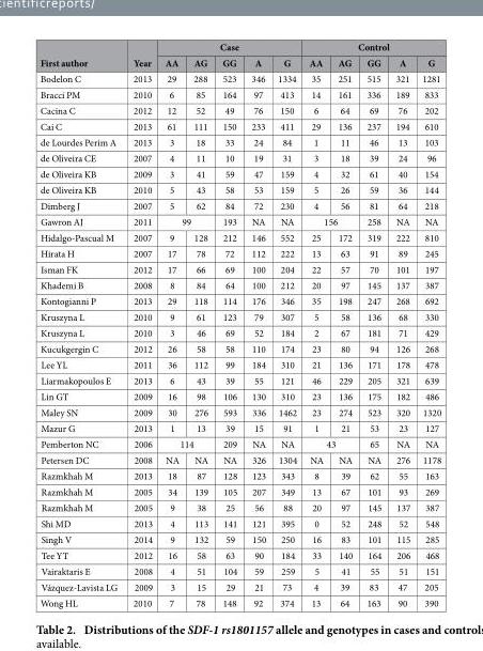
<table><thead><tr><td rowspan="2">First author</td><td rowspan="2">Year</td><td colspan="5">Case</td><td colspan="5">Control</td></tr><tr><td>AA</td><td>AG</td><td>GG</td><td>A</td><td>G</td><td>AA</td><td>AG</td><td>GG</td><td>A</td><td>G</td></tr></thead><tbody><tr><td>Bodelon C</td><td>2013</td><td>29</td><td>288</td><td>523</td><td>346</td><td>1334</td><td>35</td><td>251</td><td>515</td><td>321</td><td>1281</td></tr><tr><td>Bracci PM</td><td>2010</td><td>6</td><td>85</td><td>164</td><td>97</td><td>413</td><td>14</td><td>161</td><td>336</td><td>189</td><td>833</td></tr><tr><td>Cacina C</td><td>2012</td><td>12</td><td>52</td><td>49</td><td>76</td><td>150</td><td>6</td><td>64</td><td>69</td><td>76</td><td>202</td></tr><tr><td>Cai C</td><td>2013</td><td>61</td><td>111</td><td>150</td><td>233</td><td>411</td><td>29</td><td>136</td><td>237</td><td>194</td><td>610</td></tr><tr><td>de Lourdes Perim A</td><td>2013</td><td>3</td><td>18</td><td>33</td><td>24</td><td>84</td><td>1</td><td>11</td><td>46</td><td>13</td><td>103</td></tr><tr><td>de Oliveira CE</td><td>2007</td><td>4</td><td>11</td><td>10</td><td>19</td><td>31</td><td>3</td><td>18</td><td>39</td><td>24</td><td>96</td></tr><tr><td>de Oliveira KB</td><td>2009</td><td>3</td><td>41</td><td>59</td><td>47</td><td>159</td><td>4</td><td>32</td><td>61</td><td>40</td><td>154</td></tr><tr><td>de Oliveira KB</td><td>2010</td><td>5</td><td>43</td><td>58</td><td>53</td><td>159</td><td>5</td><td>26</td><td>59</td><td>36</td><td>144</td></tr><tr><td>Dimberg J</td><td>2007</td><td>5</td><td>62</td><td>84</td><td>72</td><td>230</td><td>4</td><td>56</td><td>81</td><td>64</td><td>218</td></tr><tr><td>Gawron AJ</td><td>2011</td><td colspan="2">99</td><td>193</td><td>NA</td><td>NA</td><td colspan="2">156</td><td>258</td><td>NA</td><td>NA</td></tr><tr><td>Hidalgo-Pascual M</td><td>2007</td><td>9</td><td>128</td><td>212</td><td>146</td><td>552</td><td>25</td><td>172</td><td>319</td><td>222</td><td>810</td></tr><tr><td>Hirata H</td><td>2007</td><td>17</td><td>78</td><td>72</td><td>112</td><td>222</td><td>13</td><td>63</td><td>91</td><td>89</td><td>245</td></tr><tr><td>Isman FK</td><td>2012</td><td>17</td><td>66</td><td>69</td><td>100</td><td>204</td><td>22</td><td>57</td><td>70</td><td>101</td><td>197</td></tr><tr><td>Khademi B</td><td>2008</td><td>8</td><td>84</td><td>64</td><td>100</td><td>212</td><td>20</td><td>97</td><td>145</td><td>137</td><td>387</td></tr><tr><td>Kontogianni P</td><td>2013</td><td>29</td><td>118</td><td>114</td><td>176</td><td>346</td><td>35</td><td>198</td><td>247</td><td>268</td><td>692</td></tr><tr><td>Kruszyna L</td><td>2010</td><td>9</td><td>61</td><td>123</td><td>79</td><td>307</td><td>5</td><td>58</td><td>136</td><td>68</td><td>330</td></tr><tr><td>Kruszyna L</td><td>2010</td><td>3</td><td>46</td><td>69</td><td>52</td><td>184</td><td>2</td><td>67</td><td>181</td><td>71</td><td>429</td></tr><tr><td>Kucukgergin C</td><td>2012</td><td>26</td><td>58</td><td>58</td><td>110</td><td>174</td><td>23</td><td>80</td><td>94</td><td>126</td><td>268</td></tr><tr><td>Lee YL</td><td>2011</td><td>36</td><td>112</td><td>99</td><td>184</td><td>310</td><td>21</td><td>136</td><td>171</td><td>178</td><td>478</td></tr><tr><td>Liarmakopoulos E</td><td>2013</td><td>6</td><td>43</td><td>39</td><td>55</td><td>121</td><td>46</td><td>229</td><td>205</td><td>321</td><td>639</td></tr><tr><td>Lin GT</td><td>2009</td><td>16</td><td>98</td><td>106</td><td>130</td><td>310</td><td>23</td><td>136</td><td>175</td><td>182</td><td>486</td></tr><tr><td>Maley SN</td><td>2009</td><td>30</td><td>276</td><td>593</td><td>336</td><td>1462</td><td>23</td><td>274</td><td>523</td><td>320</td><td>1320</td></tr><tr><td>Mazur G</td><td>2013</td><td>1</td><td>13</td><td>39</td><td>15</td><td>91</td><td>1</td><td>21</td><td>53</td><td>23</td><td>127</td></tr><tr><td>Pemberton NC</td><td>2006</td><td colspan="2">114</td><td>209</td><td>NA</td><td>NA</td><td colspan="2">43</td><td>65</td><td>NA</td><td>NA</td></tr><tr><td>Petersen DC</td><td>2008</td><td>NA</td><td>NA</td><td>NA</td><td>326</td><td>1304</td><td>NA</td><td>NA</td><td>NA</td><td>276</td><td>1178</td></tr><tr><td>Razmkhah M</td><td>2013</td><td>18</td><td>87</td><td>128</td><td>123</td><td>343</td><td>8</td><td>39</td><td>62</td><td>55</td><td>163</td></tr><tr><td>Razmkhah M</td><td>2005</td><td>34</td><td>139</td><td>105</td><td>207</td><td>349</td><td>13</td><td>67</td><td>101</td><td>93</td><td>269</td></tr><tr><td>Razmkhah M</td><td>2005</td><td>9</td><td>38</td><td>25</td><td>56</td><td>88</td><td>20</td><td>97</td><td>145</td><td>137</td><td>387</td></tr><tr><td>Shi MD</td><td>2013</td><td>4</td><td>113</td><td>141</td><td>121</td><td>395</td><td>0</td><td>52</td><td>248</td><td>52</td><td>548</td></tr><tr><td>Singh V</td><td>2014</td><td>9</td><td>132</td><td>59</td><td>150</td><td>250</td><td>16</td><td>83</td><td>101</td><td>115</td><td>285</td></tr><tr><td>Tee YT</td><td>2012</td><td>16</td><td>58</td><td>63</td><td>90</td><td>184</td><td>33</td><td>140</td><td>164</td><td>206</td><td>468</td></tr><tr><td>Vairaktaris E</td><td>2008</td><td>4</td><td>51</td><td>104</td><td>59</td><td>259</td><td>5</td><td>41</td><td>55</td><td>51</td><td>151</td></tr><tr><td>Vázquez-Lavista LG</td><td>2009</td><td>3</td><td>15</td><td>29</td><td>21</td><td>73</td><td>4</td><td>39</td><td>83</td><td>47</td><td>205</td></tr><tr><td>Wong HL</td><td>2010</td><td>7</td><td>78</td><td>148</td><td>92</td><td>374</td><td>13</td><td>64</td><td>163</td><td>90</td><td>390</td></tr></tbody></table>